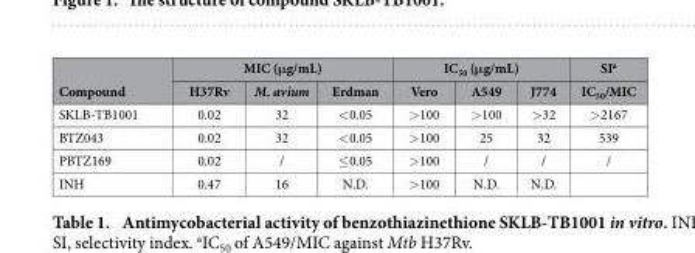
<table><thead><tr><td rowspan="2">Compound</td><td colspan="3">MIC (μg/mL)</td><td colspan="3">IC<sub>50</sub> (μg/mL)</td><td rowspan="2">SI<sup>a</sup> IC<sub>50</sub>/MIC</td></tr><tr><td>H37Rv</td><td>M. avium</td><td>Erdman</td><td>Vero</td><td>A549</td><td>J774</td></tr></thead><tbody><tr><td>SKLB-TB1001</td><td>0.02</td><td>32</td><td>&lt; 0.05</td><td>&gt; 100</td><td>&gt; 100</td><td>&gt; 32</td><td>&gt; 2167</td></tr><tr><td>BTZ043</td><td>0.02</td><td>32</td><td>&lt; 0.05</td><td>&gt; 100</td><td>25</td><td>32</td><td>539</td></tr><tr><td>PBTZ169</td><td>0.02</td><td>/</td><td>≤ 0.05</td><td>&gt; 100</td><td>/</td><td>/</td><td>/</td></tr><tr><td>INH</td><td>0.47</td><td>16</td><td>N.D.</td><td>&gt; 100</td><td>N.D.</td><td>N.D.</td><td></td></tr></tbody></table>